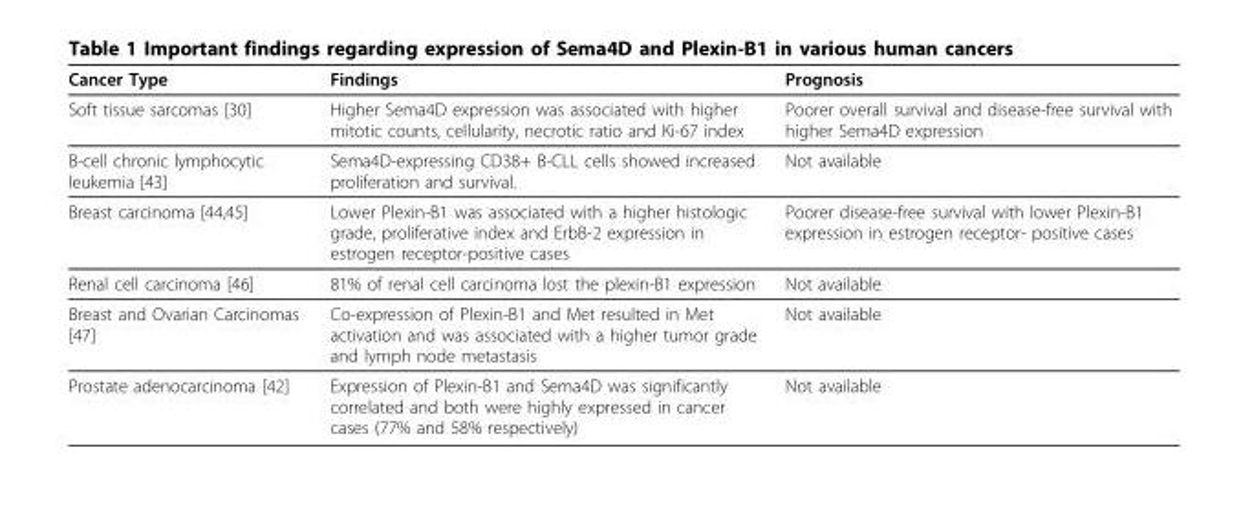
<table><thead><tr><td>Cancer Type</td><td>Findings</td><td>Prognosis</td></tr></thead><tbody><tr><td>Soft tissue sarcomas [30]</td><td>Higher Sema4D expression was associated with higher mitotic counts, cellularity, necrotic ratio and Ki-67 index</td><td>Poorer overall survival and disease-free survival with higher Sema4D expression</td></tr><tr><td>B-cell chronic lymphocytic leukemia [43]</td><td>Sema4D-expressing CD38+ B-CLL cells showed increased proliferation and survival.</td><td>Not available</td></tr><tr><td>Breast carcinoma [44,45]</td><td>Lower Plexin-B1 was associated with a higher histologic grade, proliferative index and ErbB-2 expression in estrogen receptor-positive cases</td><td>Poorer disease-free survival with lower Plexin-B1 expression in estrogen receptor- positive cases</td></tr><tr><td>Renal cell carcinoma [46]</td><td>81% of renal cell carcinoma lost the plexin-B1 expression</td><td>Not available</td></tr><tr><td>Breast and Ovarian Carcinomas [47]</td><td>Co-expression of Plexin-B1 and Met resulted in Met activation and was associated with a higher tumor grade and lymph node metastasis</td><td>Not available</td></tr><tr><td>Prostate adenocarcinoma [42]</td><td>Expression of Plexin-B1 and Sema4D was significantly correlated and both were highly expressed in cancer cases (77% and 58% respectively)</td><td>Not available</td></tr></tbody></table>